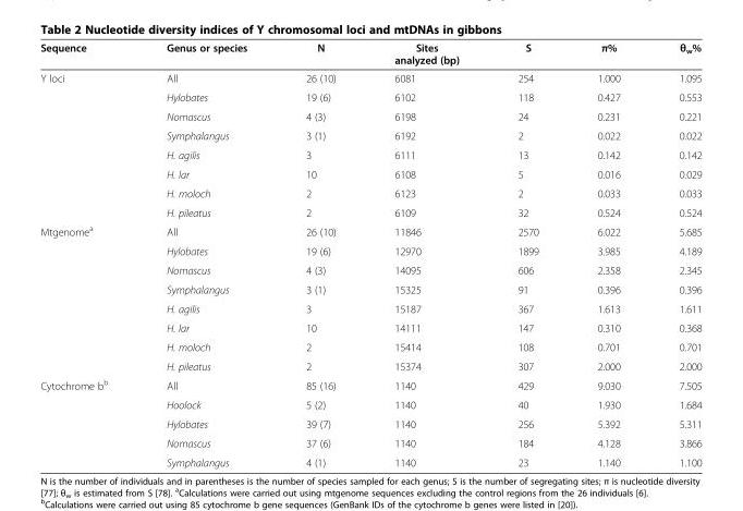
<table><thead><tr><td>Sequence</td><td>Genus or species</td><td>N</td><td>Sites analyzed (bp)</td><td>S</td><td>π%</td><td>θ<sub>w</sub>%</td></tr></thead><tbody><tr><td rowspan="8">Y loci</td><td>All</td><td>26 (10)</td><td>6081</td><td>254</td><td>1.000</td><td>1.095</td></tr><tr><td>Hylobates</td><td>19 (6)</td><td>6102</td><td>118</td><td>0.427</td><td>0.553</td></tr><tr><td>Nomascus</td><td>4 (3)</td><td>6198</td><td>24</td><td>0.231</td><td>0.221</td></tr><tr><td>Symphalangus</td><td>3 (1)</td><td>6192</td><td>2</td><td>0.022</td><td>0.022</td></tr><tr><td>H. agilis</td><td>3</td><td>6111</td><td>13</td><td>0.142</td><td>0.142</td></tr><tr><td>H. lar</td><td>10</td><td>6108</td><td>5</td><td>0.016</td><td>0.029</td></tr><tr><td>H. moloch</td><td>2</td><td>6123</td><td>2</td><td>0.033</td><td>0.033</td></tr><tr><td>H. pileatus</td><td>2</td><td>6109</td><td>32</td><td>0.524</td><td>0.524</td></tr><tr><td rowspan="8">Mtgenome<sup>a</sup></td><td>All</td><td>26 (10)</td><td>11846</td><td>2570</td><td>6.022</td><td>5.685</td></tr><tr><td>Hylobates</td><td>19 (6)</td><td>12970</td><td>1899</td><td>3.985</td><td>4.189</td></tr><tr><td>Nomascus</td><td>4 (3)</td><td>14095</td><td>606</td><td>2.358</td><td>2.345</td></tr><tr><td>Symphalangus</td><td>3 (1)</td><td>15325</td><td>91</td><td>0.396</td><td>0.396</td></tr><tr><td>H. agilis</td><td>3</td><td>15187</td><td>367</td><td>1.613</td><td>1.611</td></tr><tr><td>H. lar</td><td>10</td><td>14111</td><td>147</td><td>0.310</td><td>0.368</td></tr><tr><td>H. moloch</td><td>2</td><td>15414</td><td>108</td><td>0.701</td><td>0.701</td></tr><tr><td>H. pileatus</td><td>2</td><td>15374</td><td>307</td><td>2.000</td><td>2.000</td></tr><tr><td rowspan="5">Cytochrome b<sup>b</sup></td><td>All</td><td>85 (16)</td><td>1140</td><td>429</td><td>9.030</td><td>7.505</td></tr><tr><td>Hoolock</td><td>5 (2)</td><td>1140</td><td>40</td><td>1.930</td><td>1.684</td></tr><tr><td>Hylobates</td><td>39 (7)</td><td>1140</td><td>256</td><td>5.392</td><td>5.311</td></tr><tr><td>Nomascus</td><td>37 (6)</td><td>1140</td><td>184</td><td>4.128</td><td>3.866</td></tr><tr><td>Symphalangus</td><td>4 (1)</td><td>1140</td><td>23</td><td>1.140</td><td>1.100</td></tr></tbody></table>